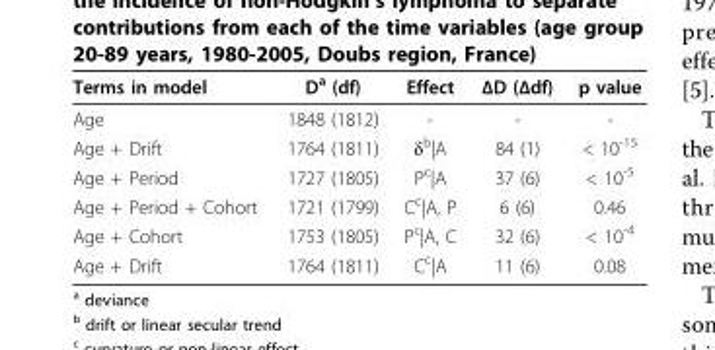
<table><thead><tr><td>Terms in model</td><td>D<sup>a</sup> (df)</td><td>Effect</td><td>ΔD (Δdf)</td><td>p value</td></tr></thead><tbody><tr><td>Age</td><td>1848 (1812)</td><td>-</td><td>-</td><td>-</td></tr><tr><td>Age + Drift</td><td>1764 (1811)</td><td>δ<sup>b</sup>|A</td><td>84 (1)</td><td>&lt; 10<sup>-15</sup></td></tr><tr><td>Age + Period</td><td>1727 (1805)</td><td>P<sup>c</sup>|A</td><td>37 (6)</td><td>&lt; 10<sup>-5</sup></td></tr><tr><td>Age + Period + Cohort</td><td>1721 (1799)</td><td>C<sup>c</sup>|A, P</td><td>6 (6)</td><td>0.46</td></tr><tr><td>Age + Cohort</td><td>1753 (1805)</td><td>P<sup>c</sup>|A, C</td><td>32 (6)</td><td>&lt; 10<sup>-4</sup></td></tr><tr><td>Age + Drift</td><td>1764 (1811)</td><td>C<sup>c</sup>|A</td><td>11 (6)</td><td>0.08</td></tr></tbody></table>